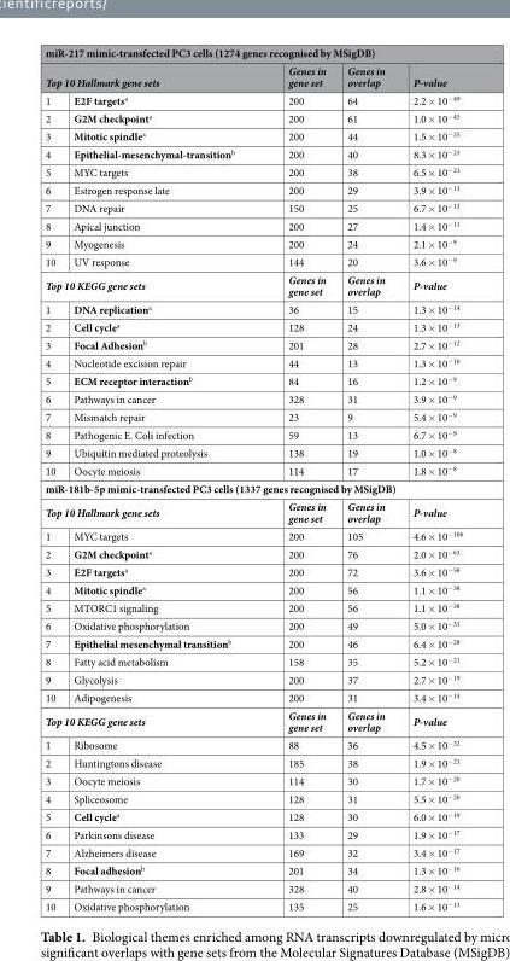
<table><thead><tr><td colspan="5">miR-217 mimic-transfected PC3 cells (1274 genes recognised by MSigDB)</td></tr><tr><td colspan="2">Top 10 Hallmark gene sets</td><td rowspan="2">Genes in gene set 200</td><td rowspan="2">Genes in overlap 64</td><td rowspan="2">P-value 2.2 × 10−49</td></tr><tr><td>1</td><td>E2F targets<sup>a</sup></td></tr></thead><tbody><tr><td>2</td><td>G2M checkpoint<sup>a</sup></td><td>200</td><td>61</td><td>1.0 × 10<sup>−45</sup></td></tr><tr><td>3</td><td>Mitotic spindle<sup>a</sup></td><td>200</td><td>44</td><td>1.5 × 10<sup>−25</sup></td></tr><tr><td>4</td><td>Epithelial-mesenchymal-transition<sup>b</sup></td><td>200</td><td>40</td><td>8.3 × 10<sup>−23</sup></td></tr><tr><td>5</td><td>MYC targets</td><td>200</td><td>38</td><td>6.5 × 10<sup>−21</sup></td></tr><tr><td>6</td><td>Estrogen response late</td><td>200</td><td>29</td><td>3.9 × 10<sup>−13</sup></td></tr><tr><td>7</td><td>DNA repair</td><td>150</td><td>25</td><td>6.7 × 10<sup>−13</sup></td></tr><tr><td>8</td><td>Apical junction</td><td>200</td><td>27</td><td>1.4 × 10<sup>−11</sup></td></tr><tr><td>9</td><td>Myogenesis</td><td>200</td><td>24</td><td>2.1 × 10<sup>−9</sup></td></tr><tr><td>10</td><td>UV response</td><td>144</td><td>20</td><td>3.6 × 10<sup>−9</sup></td></tr><tr><td colspan="2">Top 10 KEGG gene sets</td><td>Genes in gene set</td><td>Genes in overlap</td><td>P-value</td></tr><tr><td>1</td><td>DNA replication<sup>a</sup></td><td>36</td><td>15</td><td>1.3 × 10<sup>−14</sup></td></tr><tr><td>2</td><td>Cell cycle<sup>a</sup></td><td>128</td><td>24</td><td>1.3 × 10<sup>−13</sup></td></tr><tr><td>3</td><td>Focal Adhesion<sup>b</sup></td><td>201</td><td>28</td><td>2.7 × 10<sup>−12</sup></td></tr><tr><td>4</td><td>Nucleotide excision repair</td><td>44</td><td>13</td><td>1.3 × 10<sup>−10</sup></td></tr><tr><td>5</td><td>ECM receptor interaction<sup>b</sup></td><td>84</td><td>16</td><td>1.2 × 10<sup>−9</sup></td></tr><tr><td>6</td><td>Pathways in cancer</td><td>328</td><td>31</td><td>3.9 × 10<sup>−9</sup></td></tr><tr><td>7</td><td>Mismatch repair</td><td>23</td><td>9</td><td>5.4 × 10<sup>−9</sup></td></tr><tr><td>8</td><td>Pathogenic E. Coli infection</td><td>59</td><td>13</td><td>6.7 × 10<sup>−9</sup></td></tr><tr><td>9</td><td>Ubiquitin mediated proteolysis</td><td>138</td><td>19</td><td>1.0 × 10<sup>−8</sup></td></tr><tr><td>10</td><td>Oocyte meiosis</td><td>114</td><td>17</td><td>1.8 × 10<sup>−8</sup></td></tr><tr><td colspan="5">miR-181b-5p mimic-transfected PC3 cells (1337 genes recognised by MSigDB)</td></tr><tr><td colspan="2">Top 10 Hallmark gene sets</td><td>Genes in gene set</td><td>Genes in overlap</td><td>P-value</td></tr><tr><td>1</td><td>MYC targets</td><td>200</td><td>105</td><td>4.6 × 10<sup>−106</sup></td></tr><tr><td>2</td><td>G2M checkpoint<sup>a</sup></td><td>200</td><td>76</td><td>2.0 × 10<sup>−63</sup></td></tr><tr><td>3</td><td>E2F targets<sup>a</sup></td><td>200</td><td>72</td><td>3.6 × 10<sup>−58</sup></td></tr><tr><td>4</td><td>Mitotic spindle<sup>a</sup></td><td>200</td><td>56</td><td>1.1 × 10<sup>−38</sup></td></tr><tr><td>5</td><td>MTORC1 signaling</td><td>200</td><td>56</td><td>1.1 × 10<sup>−38</sup></td></tr><tr><td>6</td><td>Oxidative phosphorylation</td><td>200</td><td>49</td><td>5.0 × 10<sup>−31</sup></td></tr><tr><td>7</td><td>Epithelial mesenchymal transition<sup>b</sup></td><td>200</td><td>46</td><td>6.4 × 10<sup>−28</sup></td></tr><tr><td>8</td><td>Fatty acid metabolism</td><td>158</td><td>35</td><td>5.2 × 10<sup>−21</sup></td></tr><tr><td>9</td><td>Glycolysis</td><td>200</td><td>37</td><td>2.7 × 10<sup>−19</sup></td></tr><tr><td>10</td><td>Adipogenesis</td><td>200</td><td>31</td><td>3.4 × 10<sup>−14</sup></td></tr><tr><td colspan="2">Top 10 KEGG gene sets</td><td>Genes in gene set</td><td>Genes in overlap</td><td>P-value</td></tr><tr><td>1</td><td>Ribosome</td><td>88</td><td>36</td><td>4.5 × 10<sup>−32</sup></td></tr><tr><td>2</td><td>Huntingtons disease</td><td>185</td><td>38</td><td>1.9 × 10<sup>−21</sup></td></tr><tr><td>3</td><td>Oocyte meiosis</td><td>114</td><td>30</td><td>1.7 × 10<sup>−20</sup></td></tr><tr><td>4</td><td>Spliceosome</td><td>128</td><td>31</td><td>5.5 × 10<sup>−20</sup></td></tr><tr><td>5</td><td>Cell cycle<sup>a</sup></td><td>128</td><td>30</td><td>6.0 × 10<sup>−19</sup></td></tr><tr><td>6</td><td>Parkinsons disease</td><td>133</td><td>29</td><td>1.9 × 10<sup>−17</sup></td></tr><tr><td>7</td><td>Alzheimers disease</td><td>169</td><td>32</td><td>3.4 × 10<sup>−17</sup></td></tr><tr><td>8</td><td>Focal adhesion<sup>b</sup></td><td>201</td><td>34</td><td>1.3 × 10<sup>−16</sup></td></tr><tr><td>9</td><td>Pathways in cancer</td><td>328</td><td>40</td><td>2.8 × 10<sup>−14</sup></td></tr><tr><td>10</td><td>Oxidative phosphorylation</td><td>135</td><td>25</td><td>1.6 × 10<sup>−13</sup></td></tr></tbody></table>